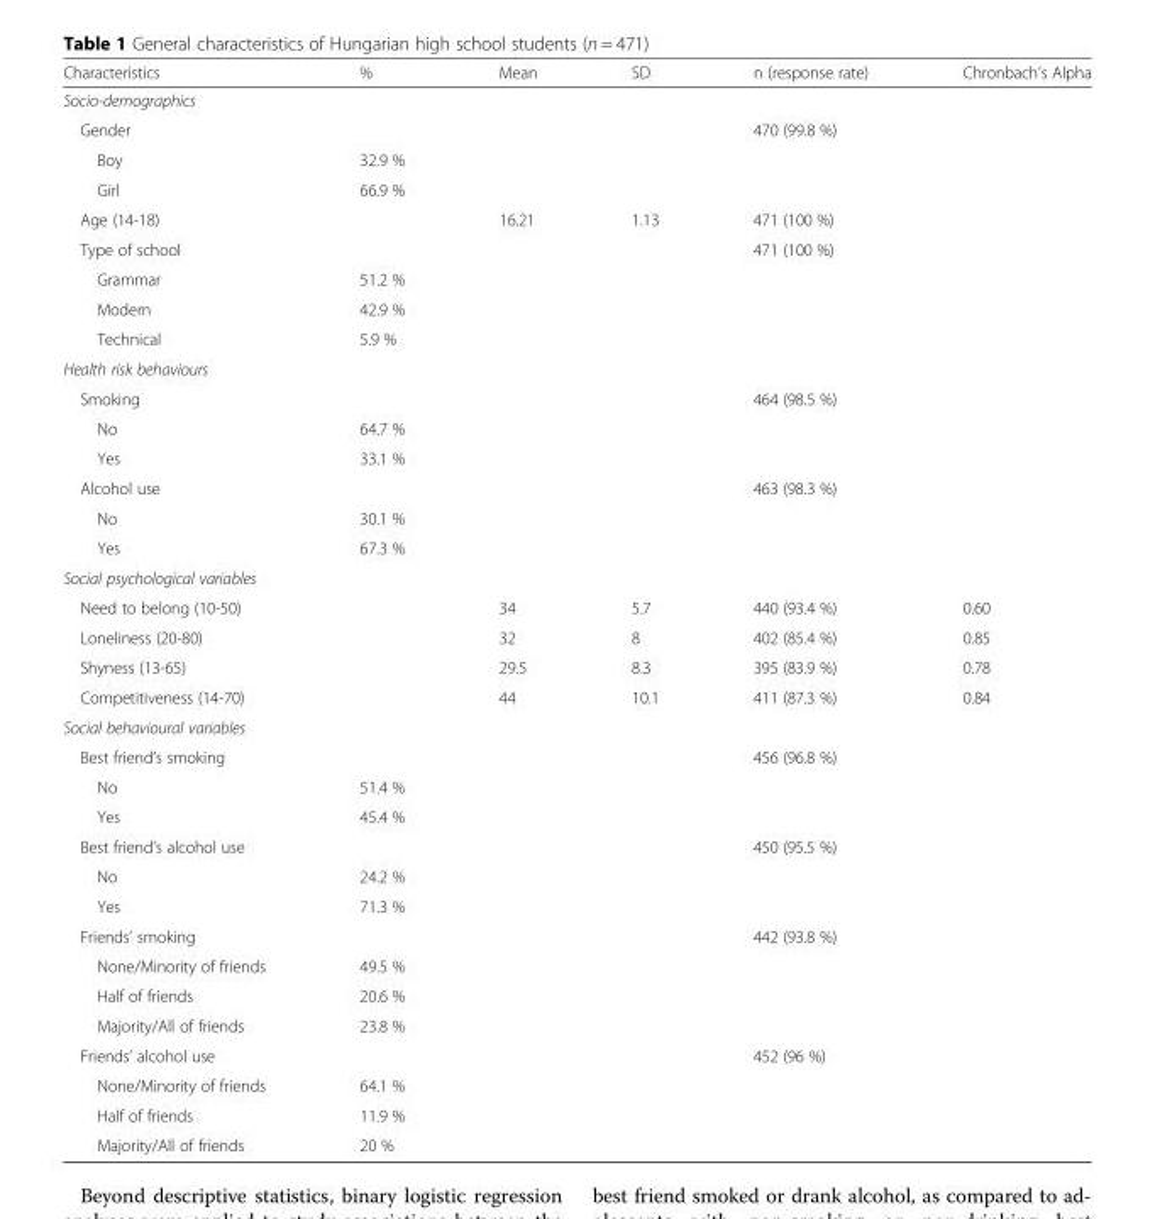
<table><thead><tr><td>Characteristics</td><td>%</td><td>Mean</td><td>SD</td><td>n (response rate)</td><td>Chronbach’s Alpha</td></tr></thead><tbody><tr><td colspan="6">Socio-demographics</td></tr><tr><td>Gender</td><td></td><td></td><td></td><td>470 (99.8 %)</td><td></td></tr><tr><td>Boy</td><td>32.9 %</td><td></td><td></td><td></td><td></td></tr><tr><td>Girl</td><td>66.9 %</td><td></td><td></td><td></td><td></td></tr><tr><td>Age (14-18)</td><td></td><td>16.21</td><td>1.13</td><td>471 (100 %)</td><td></td></tr><tr><td>Type of school</td><td></td><td></td><td></td><td>471 (100 %)</td><td></td></tr><tr><td>Grammar</td><td>51.2 %</td><td></td><td></td><td></td><td></td></tr><tr><td>Modern</td><td>42.9 %</td><td></td><td></td><td></td><td></td></tr><tr><td>Technical</td><td>5.9 %</td><td></td><td></td><td></td><td></td></tr><tr><td colspan="6">Health risk behaviours</td></tr><tr><td>Smoking</td><td></td><td></td><td></td><td>464 (98.5 %)</td><td></td></tr><tr><td>No</td><td>64.7 %</td><td></td><td></td><td></td><td></td></tr><tr><td>Yes</td><td>33.1 %</td><td></td><td></td><td></td><td></td></tr><tr><td>Alcohol use</td><td></td><td></td><td></td><td>463 (98.3 %)</td><td></td></tr><tr><td>No</td><td>30.1 %</td><td></td><td></td><td></td><td></td></tr><tr><td>Yes</td><td>67.3 %</td><td></td><td></td><td></td><td></td></tr><tr><td colspan="6">Social psychological variables</td></tr><tr><td>Need to belong (10-50)</td><td></td><td>34</td><td>5.7</td><td>440 (93.4 %)</td><td>0.60</td></tr><tr><td>Loneliness (20-80)</td><td></td><td>32</td><td>8</td><td>402 (85.4 %)</td><td>0.85</td></tr><tr><td>Shyness (13-65)</td><td></td><td>29.5</td><td>8.3</td><td>395 (83.9 %)</td><td>0.78</td></tr><tr><td>Competitiveness (14-70)</td><td></td><td>44</td><td>10.1</td><td>411 (87.3 %)</td><td>0.84</td></tr><tr><td colspan="6">Social behavioural variables</td></tr><tr><td>Best friend’s smoking</td><td></td><td></td><td></td><td>456 (96.8 %)</td><td></td></tr><tr><td>No</td><td>51.4 %</td><td></td><td></td><td></td><td></td></tr><tr><td>Yes</td><td>45.4 %</td><td></td><td></td><td></td><td></td></tr><tr><td>Best friend’s alcohol use</td><td></td><td></td><td></td><td>450 (95.5 %)</td><td></td></tr><tr><td>No</td><td>24.2 %</td><td></td><td></td><td></td><td></td></tr><tr><td>Yes</td><td>71.3 %</td><td></td><td></td><td></td><td></td></tr><tr><td>Friends’ smoking</td><td></td><td></td><td></td><td>442 (93.8 %)</td><td></td></tr><tr><td>None/Minority of friends</td><td>49.5 %</td><td></td><td></td><td></td><td></td></tr><tr><td>Half of friends</td><td>20.6 %</td><td></td><td></td><td></td><td></td></tr><tr><td>Majority/All of friends</td><td>23.8 %</td><td></td><td></td><td></td><td></td></tr><tr><td>Friends’ alcohol use</td><td></td><td></td><td></td><td>452 (96 %)</td><td></td></tr><tr><td>None/Minority of friends</td><td>64.1 %</td><td></td><td></td><td></td><td></td></tr><tr><td>Half of friends</td><td>11.9 %</td><td></td><td></td><td></td><td></td></tr><tr><td>Majority/All of friends</td><td>20 %</td><td></td><td></td><td></td><td></td></tr></tbody></table>